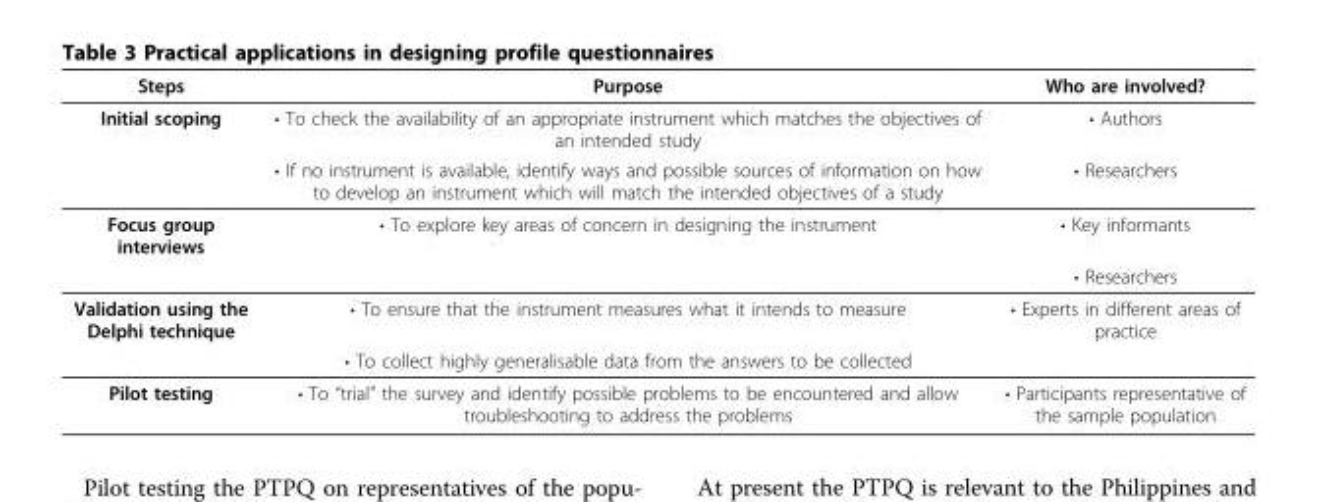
<table><thead><tr><td>Steps</td><td>Purpose</td><td>Who are involved?</td></tr></thead><tbody><tr><td rowspan="2">Initial scoping</td><td>• To check the availability of an appropriate instrument which matches the objectives of an intended study</td><td>• Authors</td></tr><tr><td>• If no instrument is available, identify ways and possible sources of information on how to develop an instrument which will match the intended objectives of a study</td><td>• Researchers</td></tr><tr><td rowspan="2">Focus group interviews</td><td>• To explore key areas of concern in designing the instrument</td><td>• Key informants</td></tr><tr><td></td><td>• Researchers</td></tr><tr><td rowspan="2">Validation using the Delphi technique</td><td>• To ensure that the instrument measures what it intends to measure</td><td>• Experts in different areas of practice</td></tr><tr><td>• To collect highly generalisable data from the answers to be collected</td><td></td></tr><tr><td>Pilot testing</td><td>• To “trial” the survey and identify possible problems to be encountered and allow troubleshooting to address the problems</td><td>• Participants representative of the sample population</td></tr></tbody></table>